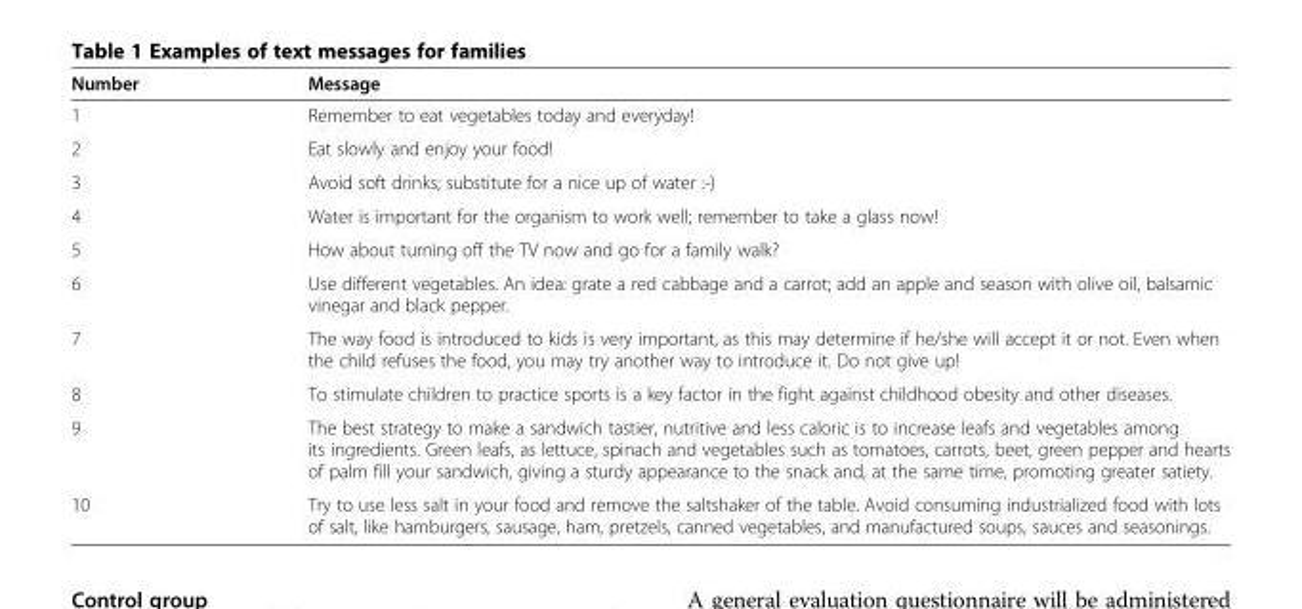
<table><thead><tr><td>Number</td><td>Message</td></tr></thead><tbody><tr><td>1</td><td>Remember to eat vegetables today and everyday!</td></tr><tr><td>2</td><td>Eat slowly and enjoy your food!</td></tr><tr><td>3</td><td>Avoid soft drinks; substitute for a nice up of water :-)</td></tr><tr><td>4</td><td>Water is important for the organism to work well; remember to take a glass now!</td></tr><tr><td>5</td><td>How about turning off the TV now and go for a family walk?</td></tr><tr><td>6</td><td>Use different vegetables. An idea: grate a red cabbage and a carrot; add an apple and season with olive oil, balsamic vinegar and black pepper.</td></tr><tr><td>7</td><td>The way food is introduced to kids is very important, as this may determine if he/she will accept it or not. Even when the child refuses the food, you may try another way to introduce it. Do not give up!</td></tr><tr><td>8</td><td>To stimulate children to practice sports is a key factor in the fight against childhood obesity and other diseases.</td></tr><tr><td>9</td><td>The best strategy to make a sandwich tastier, nutritive and less caloric is to increase leafs and vegetables among its ingredients. Green leafs, as lettuce, spinach and vegetables such as tomatoes, carrots, beet, green pepper and hearts of palm fill your sandwich, giving a sturdy appearance to the snack and, at the same time, promoting greater satiety.</td></tr><tr><td>10</td><td>Try to use less salt in your food and remove the saltshaker of the table. Avoid consuming industrialized food with lots of salt, like hamburgers, sausage, ham, pretzels, canned vegetables, and manufactured soups, sauces and seasonings.</td></tr></tbody></table>